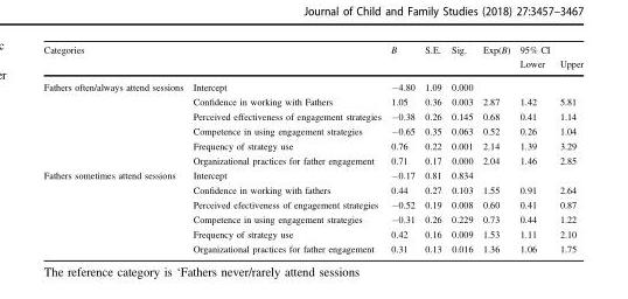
<table><thead><tr><td rowspan="2">Categories</td><td rowspan="2"></td><td rowspan="2">B</td><td rowspan="2">S.E.</td><td rowspan="2">Sig.</td><td rowspan="2">Exp(B)</td><td rowspan="2">95% CI Lower</td><td rowspan="2">Upper</td></tr><tr></tr></thead><tbody><tr><td rowspan="6">Fathers often/always attend sessions</td><td>Intercept</td><td>−4.80</td><td>1.09</td><td>0.000</td><td></td><td></td><td></td></tr><tr><td>Confidence in working with Fathers</td><td>1.05</td><td>0.36</td><td>0.003</td><td>2.87</td><td>1.42</td><td>5.81</td></tr><tr><td>Perceived effectiveness of engagement strategies</td><td>−0.38</td><td>0.26</td><td>0.145</td><td>0.68</td><td>0.41</td><td>1.14</td></tr><tr><td>Competence in using engagement strategies</td><td>−0.65</td><td>0.35</td><td>0.063</td><td>0.52</td><td>0.26</td><td>1.04</td></tr><tr><td>Frequency of strategy use</td><td>0.76</td><td>0.22</td><td>0.001</td><td>2.14</td><td>1.39</td><td>3.29</td></tr><tr><td>Organizational practices for father engagement</td><td>0.71</td><td>0.17</td><td>0.000</td><td>2.04</td><td>1.46</td><td>2.85</td></tr><tr><td rowspan="6">Fathers sometimes attend sessions</td><td>Intercept</td><td>−0.17</td><td>0.81</td><td>0.834</td><td></td><td></td><td></td></tr><tr><td>Confidence in working with fathers</td><td>0.44</td><td>0.27</td><td>0.103</td><td>1.55</td><td>0.91</td><td>2.64</td></tr><tr><td>Perceived efectiveness of engagement strategies</td><td>−0.52</td><td>0.19</td><td>0.008</td><td>0.60</td><td>0.41</td><td>0.87</td></tr><tr><td>Competence in using engagement strategies</td><td>−0.31</td><td>0.26</td><td>0.229</td><td>0.73</td><td>0.44</td><td>1.22</td></tr><tr><td>Frequency of strategy use</td><td>0.42</td><td>0.16</td><td>0.009</td><td>1.53</td><td>1.11</td><td>2.10</td></tr><tr><td>Organizational practices for father engagement</td><td>0.31</td><td>0.13</td><td>0.016</td><td>1.36</td><td>1.06</td><td>1.75</td></tr></tbody></table>